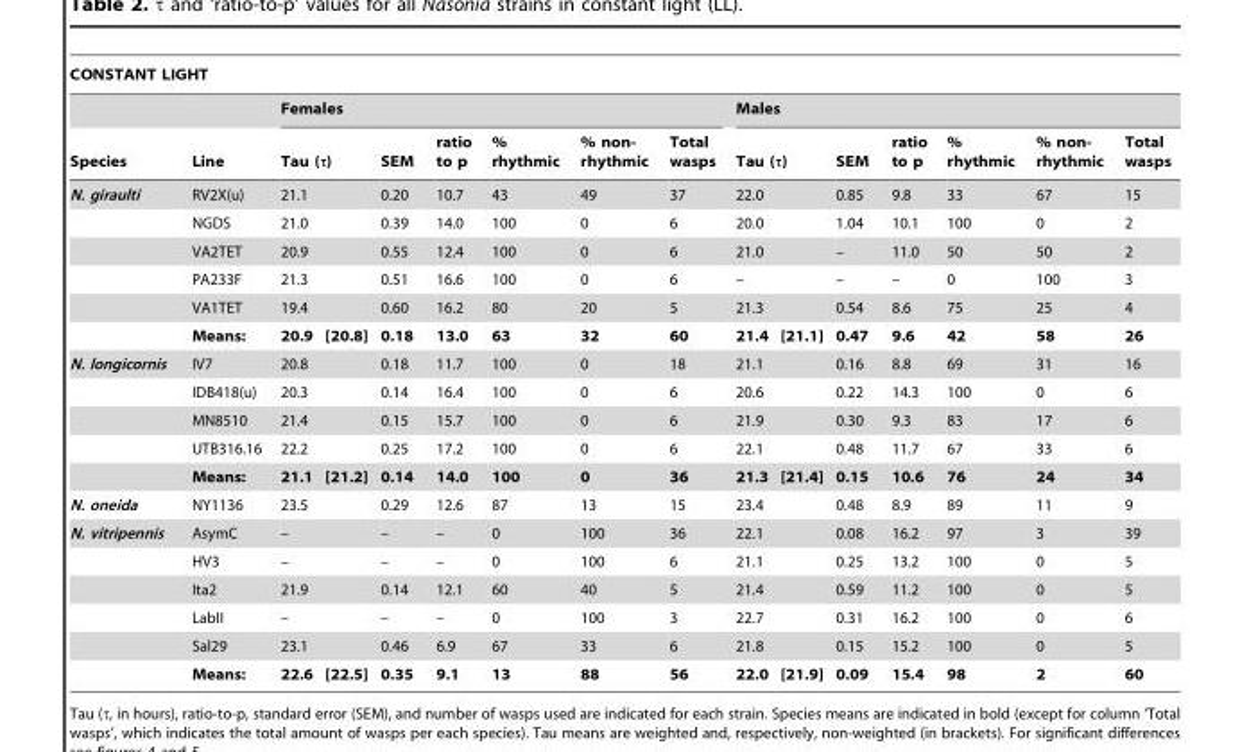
<table><thead><tr><td colspan="16">CONSTANT LIGHT</td></tr><tr><td rowspan="2">Species</td><td rowspan="2">Line</td><td colspan="7">Females</td><td colspan="7">Males</td></tr><tr><td colspan="2">Tau (τ)</td><td>SEM</td><td>ratio to p</td><td>% rhythmic</td><td>% non- rhythmic</td><td>Total wasps</td><td colspan="2">Tau (τ)</td><td>SEM</td><td>ratio to p</td><td>% rhythmic</td><td>% non- rhythmic</td><td>Total wasps</td></tr></thead><tbody><tr><td rowspan="6">N. giraulti</td><td>RV2X(u)</td><td colspan="2">21.1</td><td>0.20</td><td>10.7</td><td>43</td><td>49</td><td>37</td><td colspan="2">22.0</td><td>0.85</td><td>9.8</td><td>33</td><td>67</td><td>15</td></tr><tr><td>NGDS</td><td colspan="2">21.0</td><td>0.39</td><td>14.0</td><td>100</td><td>0</td><td>6</td><td colspan="2">20.0</td><td>1.04</td><td>10.1</td><td>100</td><td>0</td><td>2</td></tr><tr><td>VA2TET</td><td colspan="2">20.9</td><td>0.55</td><td>12.4</td><td>100</td><td>0</td><td>6</td><td colspan="2">21.0</td><td>–</td><td>11.0</td><td>50</td><td>50</td><td>2</td></tr><tr><td>PA233F</td><td colspan="2">21.3</td><td>0.51</td><td>16.6</td><td>100</td><td>0</td><td>6</td><td colspan="2">–</td><td>–</td><td>–</td><td>0</td><td>100</td><td>3</td></tr><tr><td>VA1TET</td><td colspan="2">19.4</td><td>0.60</td><td>16.2</td><td>80</td><td>20</td><td>5</td><td colspan="2">21.3</td><td>0.54</td><td>8.6</td><td>75</td><td>25</td><td>4</td></tr><tr><td>Means:</td><td>20.9</td><td>[20.8]</td><td>0.18</td><td>13.0</td><td>63</td><td>32</td><td>60</td><td>21.4</td><td>[21.1]</td><td>0.47</td><td>9.6</td><td>42</td><td>58</td><td>26</td></tr><tr><td rowspan="5">N. longicornis</td><td>IV7</td><td colspan="2">20.8</td><td>0.18</td><td>11.7</td><td>100</td><td>0</td><td>18</td><td colspan="2">21.1</td><td>0.16</td><td>8.8</td><td>69</td><td>31</td><td>16</td></tr><tr><td>IDB418(u)</td><td colspan="2">20.3</td><td>0.14</td><td>16.4</td><td>100</td><td>0</td><td>6</td><td colspan="2">20.6</td><td>0.22</td><td>14.3</td><td>100</td><td>0</td><td>6</td></tr><tr><td>MN8510</td><td colspan="2">21.4</td><td>0.15</td><td>15.7</td><td>100</td><td>0</td><td>6</td><td colspan="2">21.9</td><td>0.30</td><td>9.3</td><td>83</td><td>17</td><td>6</td></tr><tr><td>UTB316.16</td><td colspan="2">22.2</td><td>0.25</td><td>17.2</td><td>100</td><td>0</td><td>6</td><td colspan="2">22.1</td><td>0.48</td><td>11.7</td><td>67</td><td>33</td><td>6</td></tr><tr><td>Means:</td><td>21.1</td><td>[21.2]</td><td>0.14</td><td>14.0</td><td>100</td><td>0</td><td>36</td><td>21.3</td><td>[21.4]</td><td>0.15</td><td>10.6</td><td>76</td><td>24</td><td>34</td></tr><tr><td>N. oneida</td><td>NY1136</td><td colspan="2">23.5</td><td>0.29</td><td>12.6</td><td>87</td><td>13</td><td>15</td><td colspan="2">23.4</td><td>0.48</td><td>8.9</td><td>89</td><td>11</td><td>9</td></tr><tr><td rowspan="6">N. vitripennis</td><td>AsymC</td><td colspan="2">–</td><td>–</td><td>–</td><td>0</td><td>100</td><td>36</td><td colspan="2">22.1</td><td>0.08</td><td>16.2</td><td>97</td><td>3</td><td>39</td></tr><tr><td>HV3</td><td colspan="2">–</td><td>–</td><td>–</td><td>0</td><td>100</td><td>6</td><td colspan="2">21.1</td><td>0.25</td><td>13.2</td><td>100</td><td>0</td><td>5</td></tr><tr><td>Ita2</td><td colspan="2">21.9</td><td>0.14</td><td>12.1</td><td>60</td><td>40</td><td>5</td><td colspan="2">21.4</td><td>0.59</td><td>11.2</td><td>100</td><td>0</td><td>5</td></tr><tr><td>LabII</td><td colspan="2">–</td><td>–</td><td>–</td><td>0</td><td>100</td><td>3</td><td colspan="2">22.7</td><td>0.31</td><td>16.2</td><td>100</td><td>0</td><td>6</td></tr><tr><td>Sal29</td><td colspan="2">23.1</td><td>0.46</td><td>6.9</td><td>67</td><td>33</td><td>6</td><td colspan="2">21.8</td><td>0.15</td><td>15.2</td><td>100</td><td>0</td><td>5</td></tr><tr><td>Means:</td><td>22.6</td><td>[22.5]</td><td>0.35</td><td>9.1</td><td>13</td><td>88</td><td>56</td><td>22.0</td><td>[21.9]</td><td>0.09</td><td>15.4</td><td>98</td><td>2</td><td>60</td></tr></tbody></table>